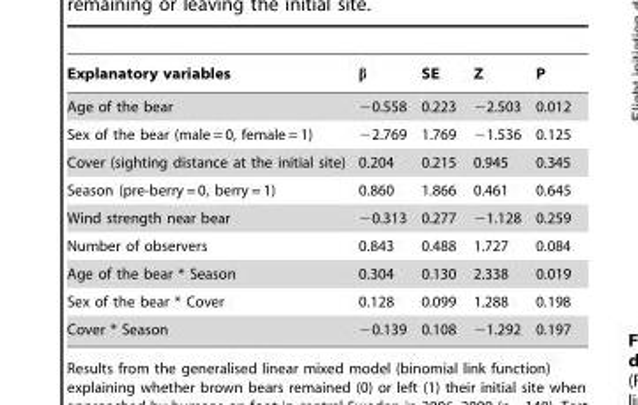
<table><thead><tr><td>Explanatory variables</td><td>β</td><td>SE</td><td>Z</td><td>P</td></tr></thead><tbody><tr><td>Age of the bear</td><td>−0.558</td><td>0.223</td><td>−2.503</td><td>0.012</td></tr><tr><td>Sex of the bear (male = 0, female = 1)</td><td>−2.769</td><td>1.769</td><td>−1.536</td><td>0.125</td></tr><tr><td>Cover (sighting distance at the initial site)</td><td>0.204</td><td>0.215</td><td>0.945</td><td>0.345</td></tr><tr><td>Season (pre-berry = 0, berry = 1)</td><td>0.860</td><td>1.866</td><td>0.461</td><td>0.645</td></tr><tr><td>Wind strength near bear</td><td>−0.313</td><td>0.277</td><td>−1.128</td><td>0.259</td></tr><tr><td>Number of observers</td><td>0.843</td><td>0.488</td><td>1.727</td><td>0.084</td></tr><tr><td>Age of the bear * Season</td><td>0.304</td><td>0.130</td><td>2.338</td><td>0.019</td></tr><tr><td>Sex of the bear * Cover</td><td>0.128</td><td>0.099</td><td>1.288</td><td>0.198</td></tr><tr><td>Cover * Season</td><td>−0.139</td><td>0.108</td><td>−1.292</td><td>0.197</td></tr></tbody></table>